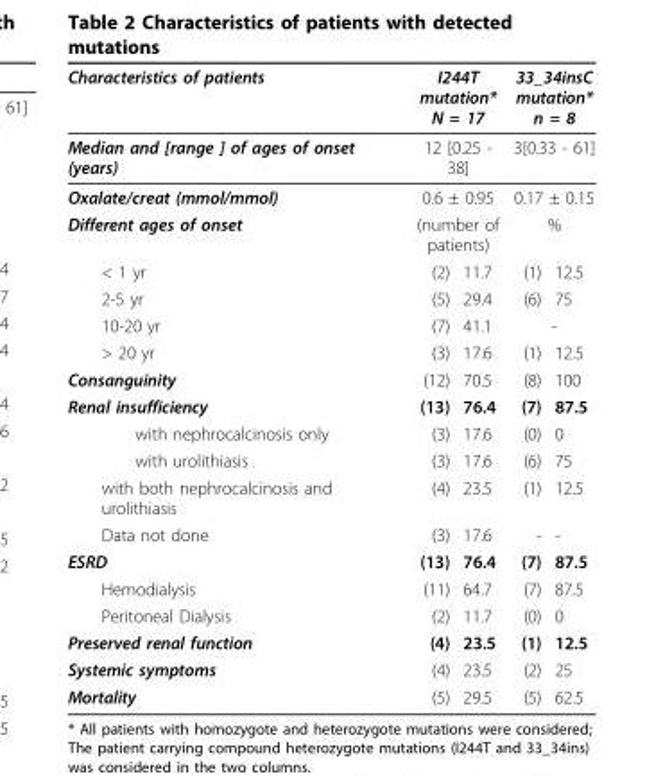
<table><thead><tr><td>Characteristics of patients</td><td colspan="2">I244T mutation* N = 17</td><td colspan="2">33_34insC mutation* n = 8</td></tr></thead><tbody><tr><td>Median and [range ] of ages of onset (years)</td><td colspan="2">12 [0.25 - 38]</td><td colspan="2">3[0.33 - 61]</td></tr><tr><td>Oxalate/creat (mmol/mmol)</td><td colspan="2">0.6 ± 0.95</td><td colspan="2">0.17 ± 0.15</td></tr><tr><td>Different ages of onset</td><td colspan="2">(number of patients)</td><td colspan="2">%</td></tr><tr><td>&lt; 1 yr</td><td>(2)</td><td>11.7</td><td>(1)</td><td>12.5</td></tr><tr><td>2-5 yr</td><td>(5)</td><td>29.4</td><td>(6)</td><td>75</td></tr><tr><td>10-20 yr</td><td>(7)</td><td>41.1</td><td colspan="2">-</td></tr><tr><td>&gt; 20 yr</td><td>(3)</td><td>17.6</td><td>(1)</td><td>12.5</td></tr><tr><td>Consanguinity</td><td>(12)</td><td>70.5</td><td>(8)</td><td>100</td></tr><tr><td>Renal insufficiency</td><td>(13)</td><td>76.4</td><td>(7)</td><td>87.5</td></tr><tr><td>with nephrocalcinosis only</td><td>(3)</td><td>17.6</td><td>(0)</td><td>0</td></tr><tr><td>with urolithiasis</td><td>(3)</td><td>17.6</td><td>(6)</td><td>75</td></tr><tr><td>with both nephrocalcinosis and urolithiasis</td><td>(4)</td><td>23.5</td><td>(1)</td><td>12.5</td></tr><tr><td>Data not done</td><td>(3)</td><td>17.6</td><td>-</td><td>-</td></tr><tr><td>ESRD</td><td>(13)</td><td>76.4</td><td>(7)</td><td>87.5</td></tr><tr><td>Hemodialysis</td><td>(11)</td><td>64.7</td><td>(7)</td><td>87.5</td></tr><tr><td>Peritoneal Dialysis</td><td>(2)</td><td>11.7</td><td>(0)</td><td>0</td></tr><tr><td>Preserved renal function</td><td>(4)</td><td>23.5</td><td>(1)</td><td>12.5</td></tr><tr><td>Systemic symptoms</td><td>(4)</td><td>23.5</td><td>(2)</td><td>25</td></tr><tr><td>Mortality</td><td>(5)</td><td>29.5</td><td>(5)</td><td>62.5</td></tr></tbody></table>